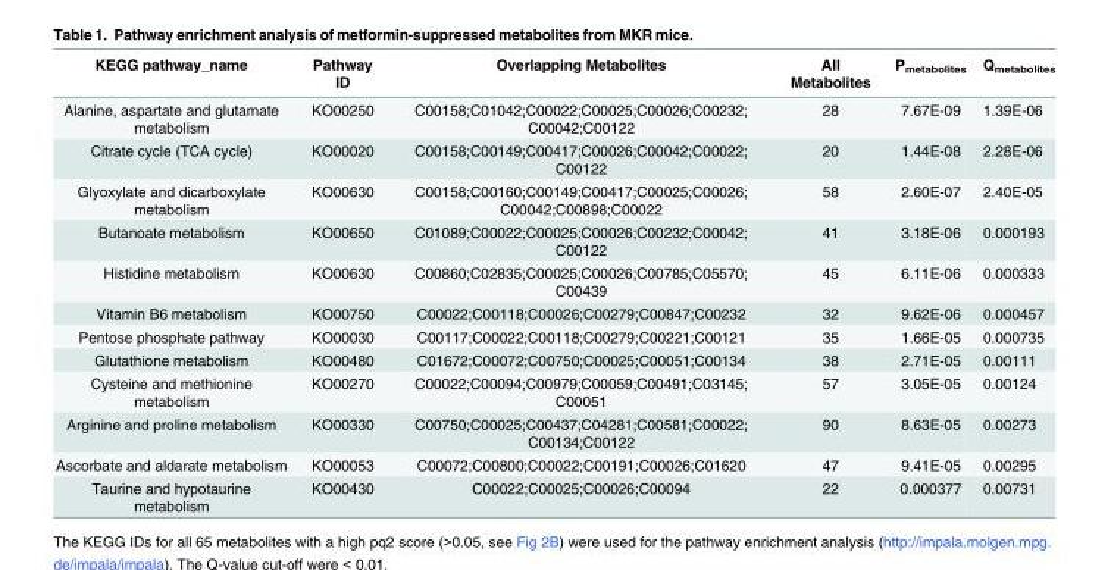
<table><thead><tr><td>KEGG pathway_name</td><td>Pathway ID</td><td>Overlapping Metabolites</td><td>All Metabolites</td><td>P<sub>metabolites</sub></td><td>Q<sub>metabolites</sub></td></tr></thead><tbody><tr><td>Alanine, aspartate and glutamate metabolism</td><td>KO00250</td><td>C00158;C01042;C00022;C00025;C00026;C00232; C00042;C00122</td><td>28</td><td>7.67E-09</td><td>1.39E-06</td></tr><tr><td>Citrate cycle (TCA cycle)</td><td>KO00020</td><td>C00158;C00149;C00417;C00026;C00042;C00022; C00122</td><td>20</td><td>1.44E-08</td><td>2.28E-06</td></tr><tr><td>Glyoxylate and dicarboxylate metabolism</td><td>KO00630</td><td>C00158;C00160;C00149;C00417;C00025;C00026; C00042;C00898;C00022</td><td>58</td><td>2.60E-07</td><td>2.40E-05</td></tr><tr><td>Butanoate metabolism</td><td>KO00650</td><td>C01089;C00022;C00025;C00026;C00232;C00042; C00122</td><td>41</td><td>3.18E-06</td><td>0.000193</td></tr><tr><td>Histidine metabolism</td><td>KO00630</td><td>C00860;C02835;C00025;C00026;C00785;C05570; C00439</td><td>45</td><td>6.11E-06</td><td>0.000333</td></tr><tr><td>Vitamin B6 metabolism</td><td>KO00750</td><td>C00022;C00118;C00026;C00279;C00847;C00232</td><td>32</td><td>9.62E-06</td><td>0.000457</td></tr><tr><td>Pentose phosphate pathway</td><td>KO00030</td><td>C00117;C00022;C00118;C00279;C00221;C00121</td><td>35</td><td>1.66E-05</td><td>0.000735</td></tr><tr><td>Glutathione metabolism</td><td>KO00480</td><td>C01672;C00072;C00750;C00025;C00051;C00134</td><td>38</td><td>2.71E-05</td><td>0.00111</td></tr><tr><td>Cysteine and methionine metabolism</td><td>KO00270</td><td>C00022;C00094;C00979;C00059;C00491;C03145; C00051</td><td>57</td><td>3.05E-05</td><td>0.00124</td></tr><tr><td>Arginine and proline metabolism</td><td>KO00330</td><td>C00750;C00025;C00437;C04281;C00581;C00022; C00134;C00122</td><td>90</td><td>8.63E-05</td><td>0.00273</td></tr><tr><td>Ascorbate and aldarate metabolism</td><td>KO00053</td><td>C00072;C00800;C00022;C00191;C00026;C01620</td><td>47</td><td>9.41E-05</td><td>0.00295</td></tr><tr><td>Taurine and hypotaurine metabolism</td><td>KO00430</td><td>C00022;C00025;C00026;C00094</td><td>22</td><td>0.000377</td><td>0.00731</td></tr></tbody></table>